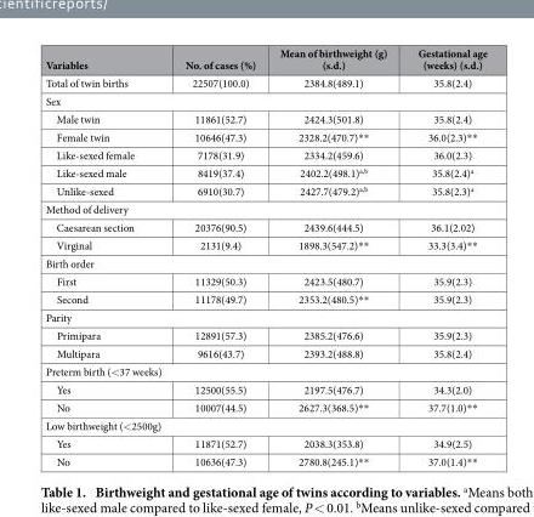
<table><thead><tr><td>Variables</td><td>No. of cases (%)</td><td>Mean of birthweight (g) (s.d.)</td><td>Gestational age (weeks) (s.d.)</td></tr></thead><tbody><tr><td>Total of twin births</td><td>22507(100.0)</td><td>2384.8(489.1)</td><td>35.8(2.4)</td></tr><tr><td colspan="4">Sex</td></tr><tr><td>Male twin</td><td>11861(52.7)</td><td>2424.3(501.8)</td><td>35.8(2.4)</td></tr><tr><td>Female twin</td><td>10646(47.3)</td><td>2328.2(470.7)* *</td><td>36.0(2.3)* *</td></tr><tr><td>Like-sexed female</td><td>7178(31.9)</td><td>2334.2(459.6)</td><td>36.0(2.3)</td></tr><tr><td>Like-sexed male</td><td>8419(37.4)</td><td>2402.2(498.1)<sup>a</sup>,<sup>b</sup></td><td>35.8(2.4)<sup>a</sup></td></tr><tr><td>Unlike-sexed</td><td>6910(30.7)</td><td>2427.7(479.2)<sup>a</sup>,<sup>b</sup></td><td>35.8(2.3)<sup>a</sup></td></tr><tr><td colspan="4">Method of delivery</td></tr><tr><td>Caesarean section</td><td>20376(90.5)</td><td>2439.6(444.5)</td><td>36.1(2.02)</td></tr><tr><td>Virginal</td><td>2131(9.4)</td><td>1898.3(547.2)* *</td><td>33.3(3.4)* *</td></tr><tr><td colspan="4">Birth order</td></tr><tr><td>First</td><td>11329(50.3)</td><td>2423.5(480.7)</td><td>35.9(2.3)</td></tr><tr><td>Second</td><td>11178(49.7)</td><td>2353.2(480.5)* *</td><td>35.9(2.3)</td></tr><tr><td colspan="4">Parity</td></tr><tr><td>Primipara</td><td>12891(57.3)</td><td>2385.2(476.6)</td><td>35.9(2.3)</td></tr><tr><td>Multipara</td><td>9616(43.7)</td><td>2393.2(488.8)</td><td>35.8(2.4)</td></tr><tr><td colspan="4">Preterm birth (&lt; 37 weeks)</td></tr><tr><td>Yes</td><td>12500(55.5)</td><td>2197.5(476.7)</td><td>34.3(2.0)</td></tr><tr><td>No</td><td>10007(44.5)</td><td>2627.3(368.5)* *</td><td>37.7(1.0)* *</td></tr><tr><td colspan="4">Low birthweight (&lt; 2500g)</td></tr><tr><td>Yes</td><td>11871(52.7)</td><td>2038.3(353.8)</td><td>34.9(2.5)</td></tr><tr><td>No</td><td>10636(47.3)</td><td>2780.8(245.1)* *</td><td>37.0(1.4)* *</td></tr></tbody></table>